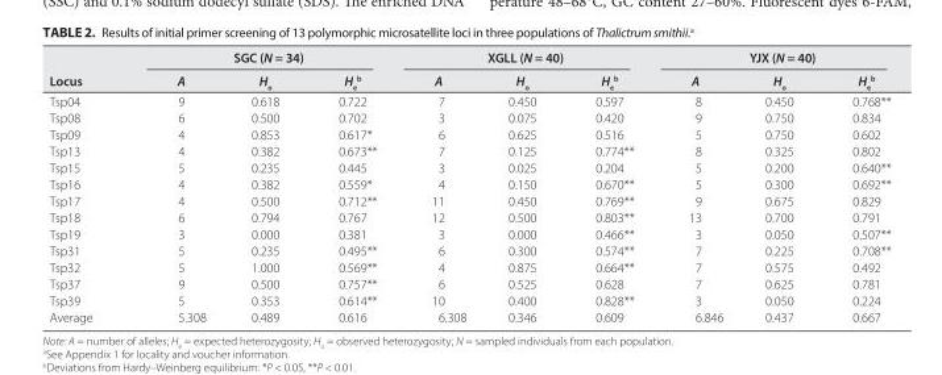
<table><thead><tr><td rowspan="2">Locus</td><td colspan="3">SGC (N = 34)</td><td colspan="3">XGLL (N = 40)</td><td colspan="3">YJX (N = 40)</td></tr><tr><td>A</td><td>H<sub>o</sub></td><td>H<sub>e</sub> b</td><td>A</td><td>H<sub>o</sub></td><td>H<sub>e</sub> b</td><td>A</td><td>H<sub>o</sub></td><td>H<sub>e</sub> b</td></tr></thead><tbody><tr><td>Tsp04</td><td>9</td><td>0.618</td><td>0.722</td><td>7</td><td>0.450</td><td>0.597</td><td>8</td><td>0.450</td><td>0.768**</td></tr><tr><td>Tsp08</td><td>6</td><td>0.500</td><td>0.702</td><td>3</td><td>0.075</td><td>0.420</td><td>9</td><td>0.750</td><td>0.834</td></tr><tr><td>Tsp09</td><td>4</td><td>0.853</td><td>0.617*</td><td>6</td><td>0.625</td><td>0.516</td><td>5</td><td>0.750</td><td>0.602</td></tr><tr><td>Tsp13</td><td>4</td><td>0.382</td><td>0.673**</td><td>7</td><td>0.125</td><td>0.774**</td><td>8</td><td>0.325</td><td>0.802</td></tr><tr><td>Tsp15</td><td>5</td><td>0.235</td><td>0.445</td><td>3</td><td>0.025</td><td>0.204</td><td>5</td><td>0.200</td><td>0.640**</td></tr><tr><td>Tsp16</td><td>4</td><td>0.382</td><td>0.559*</td><td>4</td><td>0.150</td><td>0.670**</td><td>5</td><td>0.300</td><td>0.692**</td></tr><tr><td>Tsp17</td><td>4</td><td>0.500</td><td>0.712**</td><td>11</td><td>0.450</td><td>0.769**</td><td>9</td><td>0.675</td><td>0.829</td></tr><tr><td>Tsp18</td><td>6</td><td>0.794</td><td>0.767</td><td>12</td><td>0.500</td><td>0.803**</td><td>13</td><td>0.700</td><td>0.791</td></tr><tr><td>Tsp19</td><td>3</td><td>0.000</td><td>0.381</td><td>3</td><td>0.000</td><td>0.466**</td><td>3</td><td>0.050</td><td>0.507**</td></tr><tr><td>Tsp31</td><td>5</td><td>0.235</td><td>0.495**</td><td>6</td><td>0.300</td><td>0.574**</td><td>7</td><td>0.225</td><td>0.708**</td></tr><tr><td>Tsp32</td><td>5</td><td>1.000</td><td>0.569**</td><td>4</td><td>0.875</td><td>0.664**</td><td>7</td><td>0.575</td><td>0.492</td></tr><tr><td>Tsp37</td><td>9</td><td>0.500</td><td>0.757**</td><td>6</td><td>0.525</td><td>0.628</td><td>7</td><td>0.625</td><td>0.781</td></tr><tr><td>Tsp39</td><td>5</td><td>0.353</td><td>0.614**</td><td>10</td><td>0.400</td><td>0.828**</td><td>3</td><td>0.050</td><td>0.224</td></tr><tr><td>Average</td><td>5.308</td><td>0.489</td><td>0.616</td><td>6.308</td><td>0.346</td><td>0.609</td><td>6.846</td><td>0.437</td><td>0.667</td></tr></tbody></table>